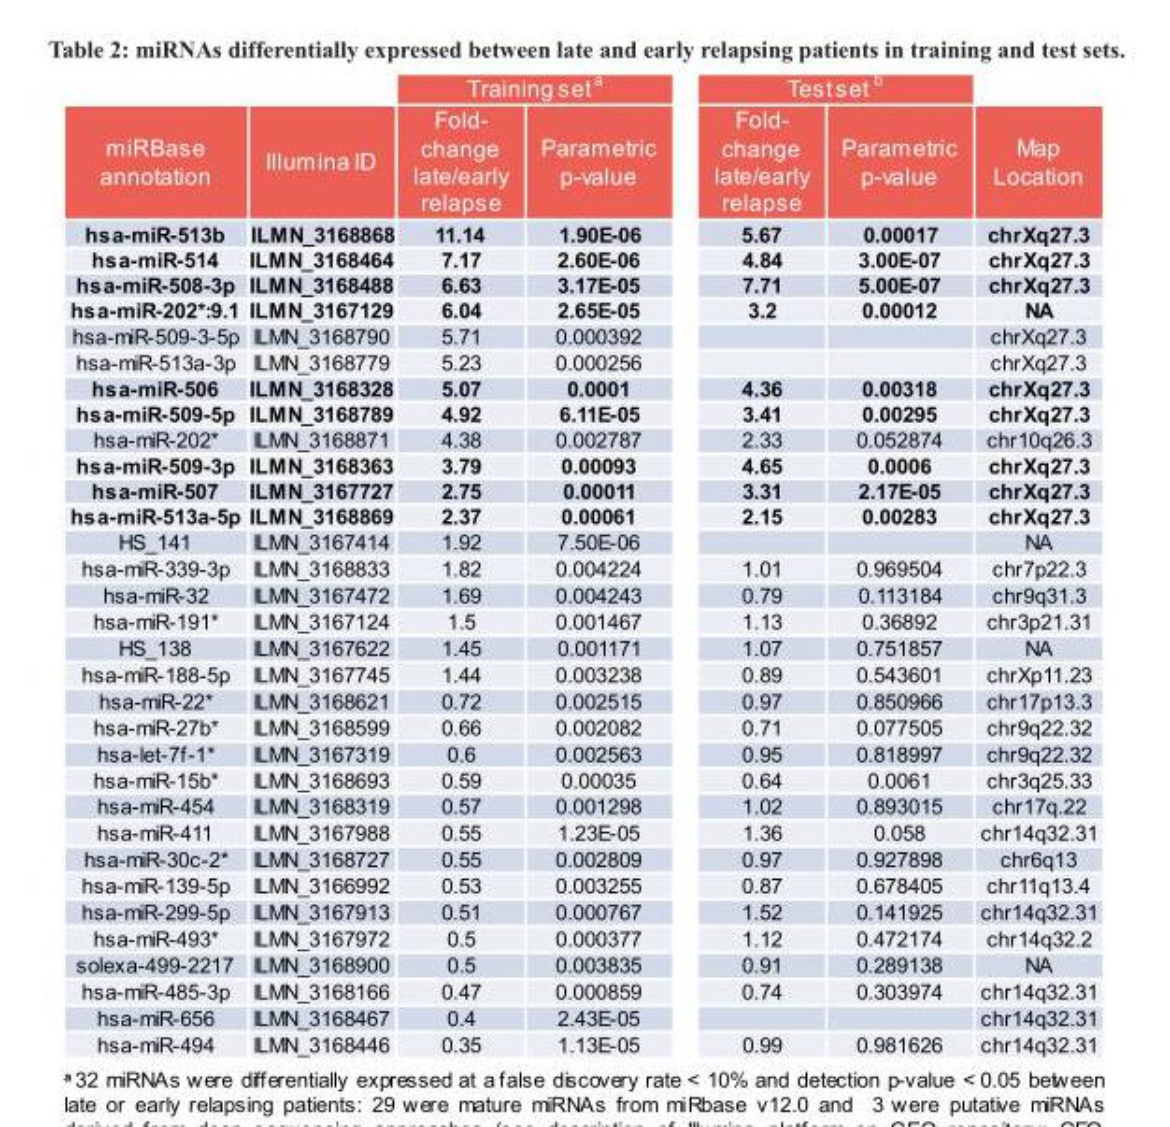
<table><thead><tr><td rowspan="2">miRBase annotation</td><td rowspan="2">Illumina ID</td><td colspan="2">Training set <sup>a</sup></td><td colspan="2">Test set <sup>b</sup></td><td rowspan="2">Map Location</td></tr><tr><td>Fold- change late/early relapse</td><td>Parametric p-value</td><td>Fold- change late/early relapse</td><td>Parametric p-value</td></tr></thead><tbody><tr><td>hsa-miR-513b</td><td>ILMN_3168868</td><td>11.14</td><td>1.90E-06</td><td>5.67</td><td>0.00017</td><td>chrXq27.3</td></tr><tr><td>hsa-miR-514</td><td>ILMN_3168464</td><td>7.17</td><td>2.60E-06</td><td>4.84</td><td>3.00E-07</td><td>chrXq27.3</td></tr><tr><td>hsa-miR-508-3p</td><td>ILMN_3168488</td><td>6.63</td><td>3.17E-05</td><td>7.71</td><td>5.00E-07</td><td>chrXq27.3</td></tr><tr><td>hsa-miR-202*:9.1</td><td>ILMN_3167129</td><td>6.04</td><td>2.65E-05</td><td>3.2</td><td>0.00012</td><td>NA</td></tr><tr><td>hsa-miR-509-3-5p</td><td>ILMN_3168790</td><td>5.71</td><td>0.000392</td><td></td><td></td><td>chrXq27.3</td></tr><tr><td>hsa-miR-513a-3p</td><td>ILMN_3168779</td><td>5.23</td><td>0.000256</td><td></td><td></td><td>chrXq27.3</td></tr><tr><td>hsa-miR-506</td><td>ILMN_3168328</td><td>5.07</td><td>0.0001</td><td>4.36</td><td>0.00318</td><td>chrXq27.3</td></tr><tr><td>hsa-miR-509-5p</td><td>ILMN_3168789</td><td>4.92</td><td>6.11E-05</td><td>3.41</td><td>0.00295</td><td>chrXq27.3</td></tr><tr><td>hsa-miR-202*</td><td>ILMN_3168871</td><td>4.38</td><td>0.002787</td><td>2.33</td><td>0.052874</td><td>chr10q26.3</td></tr><tr><td>hsa-miR-509-3p</td><td>ILMN_3168363</td><td>3.79</td><td>0.00093</td><td>4.65</td><td>0.0006</td><td>chrXq27.3</td></tr><tr><td>hsa-miR-507</td><td>ILMN_3167727</td><td>2.75</td><td>0.00011</td><td>3.31</td><td>2.17E-05</td><td>chrXq27.3</td></tr><tr><td>hsa-miR-513a-5p</td><td>ILMN_3168869</td><td>2.37</td><td>0.00061</td><td>2.15</td><td>0.00283</td><td>chrXq27.3</td></tr><tr><td>HS_141</td><td>ILMN_3167414</td><td>1.92</td><td>7.50E-06</td><td></td><td></td><td>NA</td></tr><tr><td>hsa-miR-339-3p</td><td>ILMN_3168833</td><td>1.82</td><td>0.004224</td><td>1.01</td><td>0.969504</td><td>chr7p22.3</td></tr><tr><td>hsa-miR-32</td><td>ILMN_3167472</td><td>1.69</td><td>0.004243</td><td>0.79</td><td>0.113184</td><td>chr9q31.3</td></tr><tr><td>hsa-miR-191*</td><td>ILMN_3167124</td><td>1.5</td><td>0.001467</td><td>1.13</td><td>0.36892</td><td>chr3p21.31</td></tr><tr><td>HS_138</td><td>ILMN_3167622</td><td>1.45</td><td>0.001171</td><td>1.07</td><td>0.751857</td><td>NA</td></tr><tr><td>hsa-miR-188-5p</td><td>ILMN_3167745</td><td>1.44</td><td>0.003238</td><td>0.89</td><td>0.543601</td><td>chrXp11.23</td></tr><tr><td>hsa-miR-22*</td><td>ILMN_3168621</td><td>0.72</td><td>0.002515</td><td>0.97</td><td>0.850966</td><td>chr17p13.3</td></tr><tr><td>hsa-miR-27b*</td><td>ILMN_3168599</td><td>0.66</td><td>0.002082</td><td>0.71</td><td>0.077505</td><td>chr9q22.32</td></tr><tr><td>hsa-let-7f-1*</td><td>ILMN_3167319</td><td>0.6</td><td>0.002563</td><td>0.95</td><td>0.818997</td><td>chr9q22.32</td></tr><tr><td>hsa-miR-15b*</td><td>ILMN_3168693</td><td>0.59</td><td>0.00035</td><td>0.64</td><td>0.0061</td><td>chr3q25.33</td></tr><tr><td>hsa-miR-454</td><td>ILMN_3168319</td><td>0.57</td><td>0.001298</td><td>1.02</td><td>0.893015</td><td>chr17q.22</td></tr><tr><td>hsa-miR-411</td><td>ILMN_3167988</td><td>0.55</td><td>1.23E-05</td><td>1.36</td><td>0.058</td><td>chr14q32.31</td></tr><tr><td>hsa-miR-30c-2*</td><td>ILMN_3168727</td><td>0.55</td><td>0.002809</td><td>0.97</td><td>0.927898</td><td>chr6q13</td></tr><tr><td>hsa-miR-139-5p</td><td>ILMN_3166992</td><td>0.53</td><td>0.003255</td><td>0.87</td><td>0.678405</td><td>chr11q13.4</td></tr><tr><td>hsa-miR-299-5p</td><td>ILMN_3167913</td><td>0.51</td><td>0.000767</td><td>1.52</td><td>0.141925</td><td>chr14q32.31</td></tr><tr><td>hsa-miR-493*</td><td>ILMN_3167972</td><td>0.5</td><td>0.000377</td><td>1.12</td><td>0.472174</td><td>chr14q32.2</td></tr><tr><td>solexa-499-2217</td><td>ILMN_3168900</td><td>0.5</td><td>0.003835</td><td>0.91</td><td>0.289138</td><td>NA</td></tr><tr><td>hsa-miR-485-3p</td><td>ILMN_3168166</td><td>0.47</td><td>0.000859</td><td>0.74</td><td>0.303974</td><td>chr14q32.31</td></tr><tr><td>hsa-miR-656</td><td>ILMN_3168467</td><td>0.4</td><td>2.43E-05</td><td></td><td></td><td>chr14q32.31</td></tr><tr><td>hsa-miR-494</td><td>ILMN_3168446</td><td>0.35</td><td>1.13E-05</td><td>0.99</td><td>0.981626</td><td>chr14q32.31</td></tr></tbody></table>